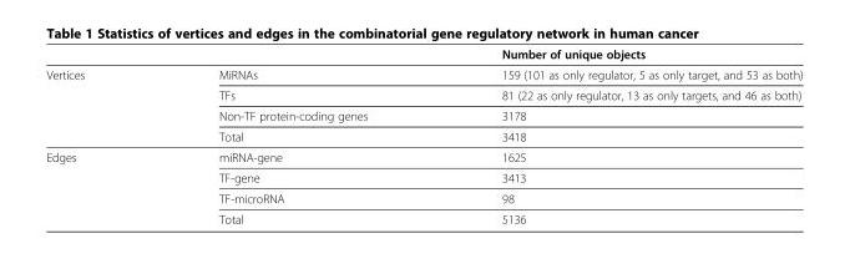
<table><thead><tr><td></td><td></td><td>Number of unique objects</td></tr></thead><tbody><tr><td rowspan="4">Vertices</td><td>MiRNAs</td><td>159 (101 as only regulator, 5 as only target, and 53 as both)</td></tr><tr><td>TFs</td><td>81 (22 as only regulator, 13 as only targets, and 46 as both)</td></tr><tr><td>Non-TF protein-coding genes</td><td>3178</td></tr><tr><td>Total</td><td>3418</td></tr><tr><td rowspan="4">Edges</td><td>miRNA-gene</td><td>1625</td></tr><tr><td>TF-gene</td><td>3413</td></tr><tr><td>TF-microRNA</td><td>98</td></tr><tr><td>Total</td><td>5136</td></tr></tbody></table>